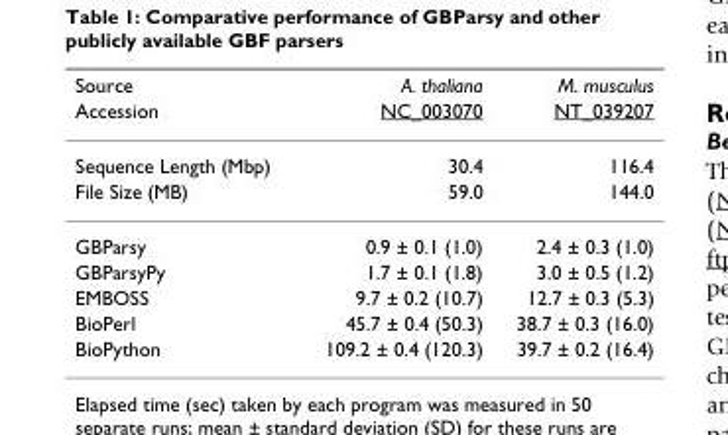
<table><thead><tr><td rowspan="2">Source Accession</td><td rowspan="2">A. thaliana NC_003070</td><td rowspan="2">M. musculus NT_039207</td></tr><tr></tr></thead><tbody><tr><td>Sequence Length (Mbp)</td><td>30.4</td><td>116.4</td></tr><tr><td>File Size (MB)</td><td>59.0</td><td>144.0</td></tr><tr><td>GBParsy</td><td>0.9 ± 0.1 (1.0)</td><td>2.4 ± 0.3 (1.0)</td></tr><tr><td>GBParsyPy</td><td>1.7 ± 0.1 (1.8)</td><td>3.0 ± 0.5 (1.2)</td></tr><tr><td>EMBOSS</td><td>9.7 ± 0.2 (10.7)</td><td>12.7 ± 0.3 (5.3)</td></tr><tr><td>BioPerl</td><td>45.7 ± 0.4 (50.3)</td><td>38.7 ± 0.3 (16.0)</td></tr><tr><td>BioPython</td><td>109.2 ± 0.4 (120.3)</td><td>39.7 ± 0.2 (16.4)</td></tr></tbody></table>